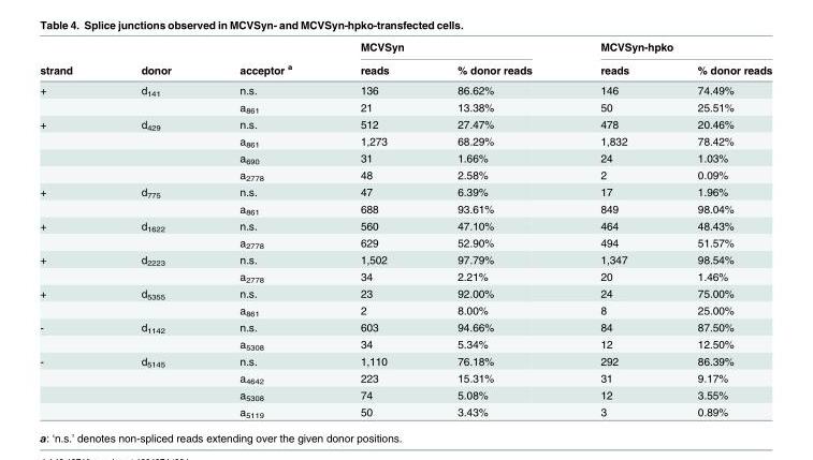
<table><thead><tr><td rowspan="2">strand</td><td rowspan="2">donor</td><td rowspan="2">acceptor <sup>a</sup></td><td colspan="2">MCVSyn</td><td colspan="2">MCVSyn-hpko</td></tr><tr><td>reads</td><td>% donor reads</td><td>reads</td><td>% donor reads</td></tr></thead><tbody><tr><td rowspan="2">+</td><td>d<sub>141</sub></td><td>n.s.</td><td>136</td><td>86.62%</td><td>146</td><td>74.49%</td></tr><tr><td></td><td>a<sub>861</sub></td><td>21</td><td>13.38%</td><td>50</td><td>25.51%</td></tr><tr><td rowspan="4">+</td><td>d<sub>429</sub></td><td>n.s.</td><td>512</td><td>27.47%</td><td>478</td><td>20.46%</td></tr><tr><td></td><td>a<sub>861</sub></td><td>1,273</td><td>68.29%</td><td>1,832</td><td>78.42%</td></tr><tr><td></td><td>a<sub>690</sub></td><td>31</td><td>1.66%</td><td>24</td><td>1.03%</td></tr><tr><td></td><td>a<sub>2778</sub></td><td>48</td><td>2.58%</td><td>2</td><td>0.09%</td></tr><tr><td rowspan="2">+</td><td>d<sub>775</sub></td><td>n.s.</td><td>47</td><td>6.39%</td><td>17</td><td>1.96%</td></tr><tr><td></td><td>a<sub>861</sub></td><td>688</td><td>93.61%</td><td>849</td><td>98.04%</td></tr><tr><td rowspan="2">+</td><td>d<sub>1622</sub></td><td>n.s.</td><td>560</td><td>47.10%</td><td>464</td><td>48.43%</td></tr><tr><td></td><td>a<sub>2778</sub></td><td>629</td><td>52.90%</td><td>494</td><td>51.57%</td></tr><tr><td rowspan="2">+</td><td>d<sub>2223</sub></td><td>n.s.</td><td>1,502</td><td>97.79%</td><td>1,347</td><td>98.54%</td></tr><tr><td></td><td>a<sub>2778</sub></td><td>34</td><td>2.21%</td><td>20</td><td>1.46%</td></tr><tr><td rowspan="2">+</td><td>d<sub>5355</sub></td><td>n.s.</td><td>23</td><td>92.00%</td><td>24</td><td>75.00%</td></tr><tr><td></td><td>a<sub>861</sub></td><td>2</td><td>8.00%</td><td>8</td><td>25.00%</td></tr><tr><td rowspan="2">-</td><td>d<sub>1142</sub></td><td>n.s.</td><td>603</td><td>94.66%</td><td>84</td><td>87.50%</td></tr><tr><td></td><td>a<sub>5308</sub></td><td>34</td><td>5.34%</td><td>12</td><td>12.50%</td></tr><tr><td rowspan="4">-</td><td>d<sub>5145</sub></td><td>n.s.</td><td>1,110</td><td>76.18%</td><td>292</td><td>86.39%</td></tr><tr><td></td><td>a<sub>4642</sub></td><td>223</td><td>15.31%</td><td>31</td><td>9.17%</td></tr><tr><td></td><td>a<sub>5308</sub></td><td>74</td><td>5.08%</td><td>12</td><td>3.55%</td></tr><tr><td></td><td>a<sub>5119</sub></td><td>50</td><td>3.43%</td><td>3</td><td>0.89%</td></tr></tbody></table>